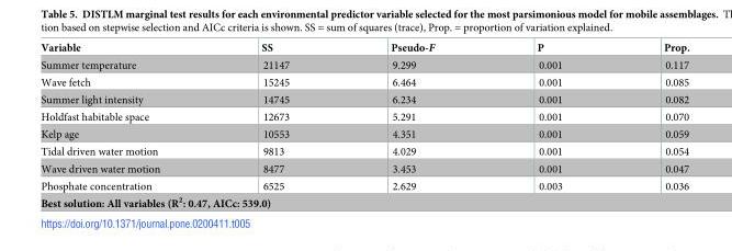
<table><thead><tr><td>Variable</td><td>SS</td><td>Pseudo-F</td><td>P</td><td>Prop.</td></tr></thead><tbody><tr><td>Summer temperature</td><td>21147</td><td>9.299</td><td>0.001</td><td>0.117</td></tr><tr><td>Wave fetch</td><td>15245</td><td>6.464</td><td>0.001</td><td>0.085</td></tr><tr><td>Summer light intensity</td><td>14745</td><td>6.234</td><td>0.001</td><td>0.082</td></tr><tr><td>Holdfast habitable space</td><td>12673</td><td>5.291</td><td>0.001</td><td>0.070</td></tr><tr><td>Kelp age</td><td>10553</td><td>4.351</td><td>0.001</td><td>0.059</td></tr><tr><td>Tidal driven water motion</td><td>9813</td><td>4.029</td><td>0.001</td><td>0.054</td></tr><tr><td>Wave driven water motion</td><td>8477</td><td>3.453</td><td>0.001</td><td>0.047</td></tr><tr><td>Phosphate concentration</td><td>6525</td><td>2.629</td><td>0.003</td><td>0.036</td></tr><tr><td colspan="5">Best solution: All variables (R<sup>2</sup>: 0.47, AICc: 539.0)</td></tr></tbody></table>